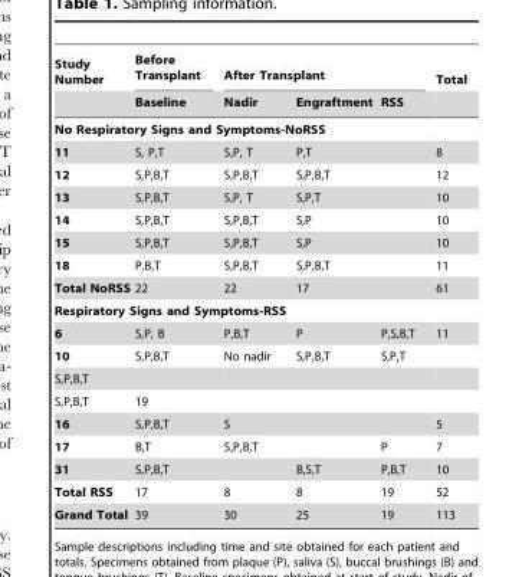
<table><thead><tr><td rowspan="2">Study Number</td><td rowspan="2">Before Transplant Baseline</td><td colspan="3">After Transplant</td><td rowspan="2">Total</td></tr><tr><td>Nadir</td><td>Engraftment</td><td>RSS</td></tr></thead><tbody><tr><td colspan="6">No Respiratory Signs and Symptoms-NoRSS</td></tr><tr><td>11</td><td>S, P,T</td><td>S,P, T</td><td>P,T</td><td></td><td>8</td></tr><tr><td>12</td><td>S,P,B,T</td><td>S,P,B,T</td><td>S,P,B,T</td><td></td><td>12</td></tr><tr><td>13</td><td>S,P,B,T</td><td>S,P, T</td><td>S,P,T</td><td></td><td>10</td></tr><tr><td>14</td><td>S,P,B,T</td><td>S,P,B,T</td><td>S,P</td><td></td><td>10</td></tr><tr><td>15</td><td>S,P,B,T</td><td>S,P,B,T</td><td>S,P</td><td></td><td>10</td></tr><tr><td>18</td><td>P,B,T</td><td>S,P,B,T</td><td>S,P,B,T</td><td></td><td>11</td></tr><tr><td>Total NoRSS</td><td>22</td><td>22</td><td>17</td><td></td><td>61</td></tr><tr><td colspan="6">Respiratory Signs and Symptoms-RSS</td></tr><tr><td>6</td><td>S,P, B</td><td>P,B,T</td><td>P</td><td>P,S,B,T</td><td>11</td></tr><tr><td>10</td><td>S,P,B,T</td><td>No nadir</td><td>S,P,B,T</td><td>S,P,T</td><td></td></tr><tr><td colspan="6">S,P,B,T</td></tr><tr><td>S,P,B,T</td><td>19</td><td></td><td></td><td></td><td></td></tr><tr><td>16</td><td>S,P,B,T</td><td>S</td><td></td><td></td><td>5</td></tr><tr><td>17</td><td>B,T</td><td>S,P,B,T</td><td></td><td>P</td><td>7</td></tr><tr><td>31</td><td>S,P,B,T</td><td></td><td>B,S,T</td><td>P,B,T</td><td>10</td></tr><tr><td>Total RSS</td><td>17</td><td>8</td><td>8</td><td>19</td><td>52</td></tr><tr><td>Grand Total</td><td>39</td><td>30</td><td>25</td><td>19</td><td>113</td></tr></tbody></table>